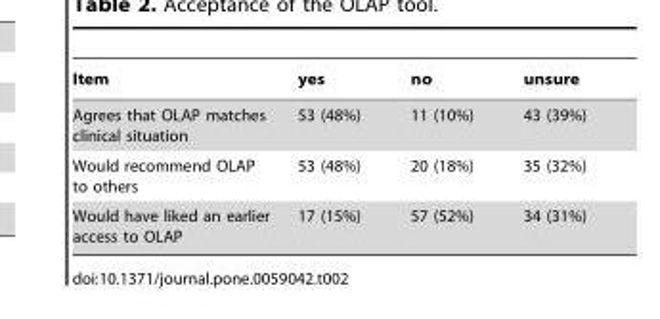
<table><thead><tr><td>Item</td><td>yes</td><td>no</td><td>unsure</td></tr></thead><tbody><tr><td>Agrees that OLAP matches clinical situation</td><td>53 (48%)</td><td>11 (10%)</td><td>43 (39%)</td></tr><tr><td>Would recommend OLAP to others</td><td>53 (48%)</td><td>20 (18%)</td><td>35 (32%)</td></tr><tr><td>Would have liked an earlier access to OLAP</td><td>17 (15%)</td><td>57 (52%)</td><td>34 (31%)</td></tr></tbody></table>